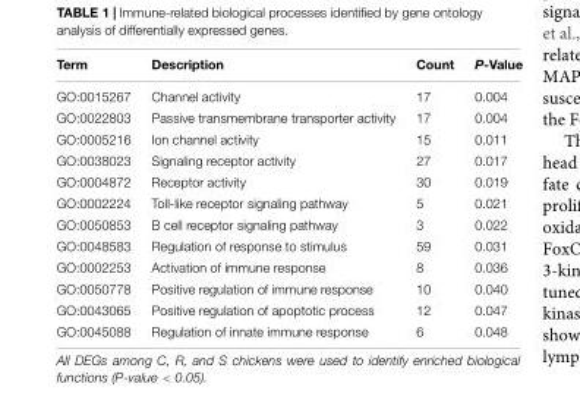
<table><thead><tr><td>Term</td><td>Description</td><td>Count</td><td>P-Value</td></tr></thead><tbody><tr><td>GO:0015267</td><td>Channel activity</td><td>17</td><td>0.004</td></tr><tr><td>GO:0022803</td><td>Passive transmembrane transporter activity</td><td>17</td><td>0.004</td></tr><tr><td>GO:0005216</td><td>Ion channel activity</td><td>15</td><td>0.011</td></tr><tr><td>GO:0038023</td><td>Signaling receptor activity</td><td>27</td><td>0.017</td></tr><tr><td>GO:0004872</td><td>Receptor activity</td><td>30</td><td>0.019</td></tr><tr><td>GO:0002224</td><td>Toll-like receptor signaling pathway</td><td>5</td><td>0.021</td></tr><tr><td>GO:0050853</td><td>B cell receptor signaling pathway</td><td>3</td><td>0.022</td></tr><tr><td>GO:0048583</td><td>Regulation of response to stimulus</td><td>59</td><td>0.031</td></tr><tr><td>GO:0002253</td><td>Activation of immune response</td><td>8</td><td>0.036</td></tr><tr><td>GO:0050778</td><td>Positive regulation of immune response</td><td>10</td><td>0.040</td></tr><tr><td>GO:0043065</td><td>Positive regulation of apoptotic process</td><td>12</td><td>0.047</td></tr><tr><td>GO:0045088</td><td>Regulation of innate immune response</td><td>6</td><td>0.048</td></tr></tbody></table>